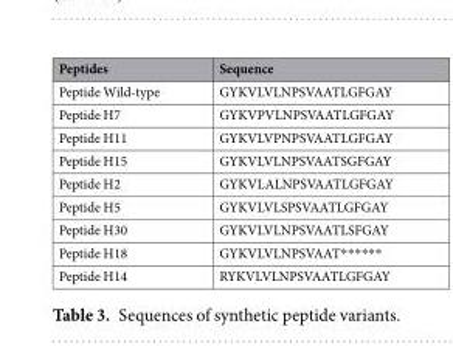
<table><thead><tr><td>Peptides</td><td>Sequence</td></tr></thead><tbody><tr><td>Peptide Wild-type</td><td>GYKVLVLNPSVAATLGFGAY</td></tr><tr><td>Peptide H7</td><td>GYKVPVLNPSVAATLGFGAY</td></tr><tr><td>Peptide H11</td><td>GYKVLVPNPSVAATLGFGAY</td></tr><tr><td>Peptide H15</td><td>GYKVLVLNPSVAATSGFGAY</td></tr><tr><td>Peptide H2</td><td>GYKVLALNPSVAATLGFGAY</td></tr><tr><td>Peptide H5</td><td>GYKVLVLSPSVAATLGFGAY</td></tr><tr><td>Peptide H30</td><td>GYKVLVLNPSVAATLSFGAY</td></tr><tr><td>Peptide H18</td><td>GYKVLVLNPSVAAT******</td></tr><tr><td>Peptide H14</td><td>RYKVLVLNPSVAATLGFGAY</td></tr></tbody></table>